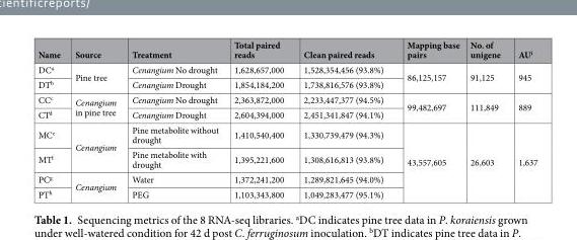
<table><thead><tr><td>Name</td><td>Source</td><td>Treatment</td><td>Total paired reads</td><td>Clean paired reads</td><td>Mapping base pairs</td><td>No. of unigene</td><td>AU<sup>i</sup></td></tr></thead><tbody><tr><td>DC<sup>a</sup></td><td rowspan="2">Pine tree</td><td>Cenangium No drought</td><td>1,628,657,000</td><td>1,528,354,456 (93.8%)</td><td rowspan="2">86,125,157</td><td rowspan="2">91,125</td><td rowspan="2">945</td></tr><tr><td>DT<sup>b</sup></td><td>Cenangium Drought</td><td>1,854,184,200</td><td>1,738,816,576 (93.8%)</td></tr><tr><td>CC<sup>c</sup></td><td rowspan="2">Cenangium in pine tree</td><td>Cenangium No drought</td><td>2,363,872,000</td><td>2,233,447,377 (94.5%)</td><td rowspan="2">99,482,697</td><td rowspan="2">111,849</td><td rowspan="2">889</td></tr><tr><td>CT<sup>d</sup></td><td>Cenangium Drought</td><td>2,604,394,000</td><td>2,451,341,847 (94.1%)</td></tr><tr><td>MC<sup>e</sup></td><td rowspan="2">Cenangium</td><td>Pine metabolite without drought</td><td>1,410,540,400</td><td>1,330,739,479 (94.3%)</td><td rowspan="4">43,557,605</td><td rowspan="4">26,603</td><td rowspan="4">1,637</td></tr><tr><td>MT<sup>f</sup></td><td>Pine metabolite with drought</td><td>1,395,221,600</td><td>1,308,616,813 (93.8%)</td></tr><tr><td>PC<sup>g</sup></td><td rowspan="2">Cenangium</td><td>Water</td><td>1,372,241,200</td><td>1,289,821,645 (94.0%)</td></tr><tr><td>PT<sup>h</sup></td><td>PEG</td><td>1,103,343,800</td><td>1,049,283,477 (95.1%)</td></tr></tbody></table>